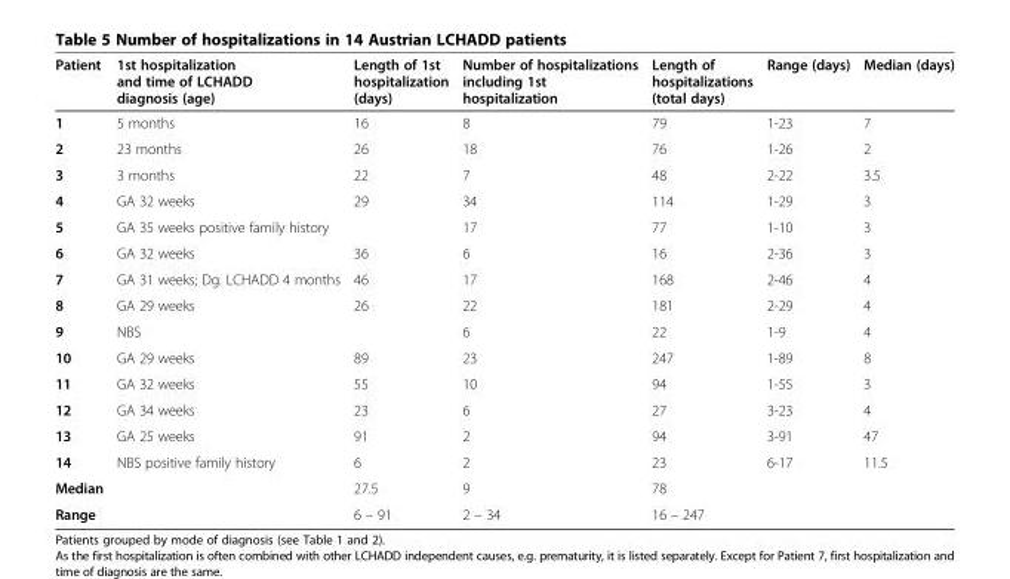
<table><thead><tr><td>Patient</td><td>1st hospitalization and time of LCHADD diagnosis (age)</td><td>Length of 1st hospitalization (days)</td><td>Number of hospitalizations including 1st hospitalization</td><td>Length of hospitalizations (total days)</td><td>Range (days)</td><td>Median (days)</td></tr></thead><tbody><tr><td>1</td><td>5 months</td><td>16</td><td>8</td><td>79</td><td>1-23</td><td>7</td></tr><tr><td>2</td><td>23 months</td><td>26</td><td>18</td><td>76</td><td>1-26</td><td>2</td></tr><tr><td>3</td><td>3 months</td><td>22</td><td>7</td><td>48</td><td>2-22</td><td>3.5</td></tr><tr><td>4</td><td>GA 32 weeks</td><td>29</td><td>34</td><td>114</td><td>1-29</td><td>3</td></tr><tr><td>5</td><td>GA 35 weeks positive family history</td><td></td><td>17</td><td>77</td><td>1-10</td><td>3</td></tr><tr><td>6</td><td>GA 32 weeks</td><td>36</td><td>6</td><td>16</td><td>2-36</td><td>3</td></tr><tr><td>7</td><td>GA 31 weeks; Dg. LCHADD 4 months</td><td>46</td><td>17</td><td>168</td><td>2-46</td><td>4</td></tr><tr><td>8</td><td>GA 29 weeks</td><td>26</td><td>22</td><td>181</td><td>2-29</td><td>4</td></tr><tr><td>9</td><td>NBS</td><td></td><td>6</td><td>22</td><td>1-9</td><td>4</td></tr><tr><td>10</td><td>GA 29 weeks</td><td>89</td><td>23</td><td>247</td><td>1-89</td><td>8</td></tr><tr><td>11</td><td>GA 32 weeks</td><td>55</td><td>10</td><td>94</td><td>1-55</td><td>3</td></tr><tr><td>12</td><td>GA 34 weeks</td><td>23</td><td>6</td><td>27</td><td>3-23</td><td>4</td></tr><tr><td>13</td><td>GA 25 weeks</td><td>91</td><td>2</td><td>94</td><td>3-91</td><td>47</td></tr><tr><td>14</td><td>NBS positive family history</td><td>6</td><td>2</td><td>23</td><td>6-17</td><td>11.5</td></tr><tr><td>Median</td><td></td><td>27.5</td><td>9</td><td>78</td><td></td><td></td></tr><tr><td>Range</td><td></td><td>6 – 91</td><td>2 – 34</td><td>16 – 247</td><td></td><td></td></tr></tbody></table>